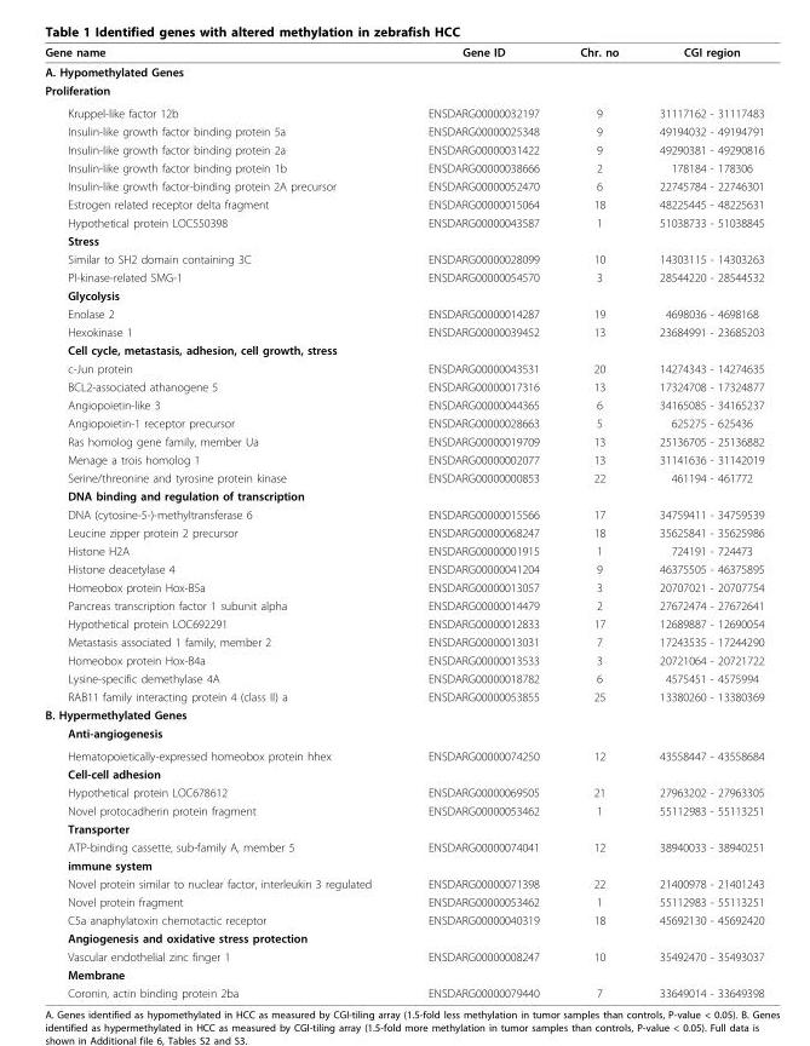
<table><thead><tr><td>Gene name</td><td>Gene ID</td><td>Chr. no</td><td>CGI region</td></tr></thead><tbody><tr><td colspan="4">A. Hypomethylated Genes</td></tr><tr><td colspan="4">Proliferation</td></tr><tr><td>Kruppel-like factor 12b</td><td>ENSDARG00000032197</td><td>9</td><td>31117162 - 31117483</td></tr><tr><td>Insulin-like growth factor binding protein 5a</td><td>ENSDARG00000025348</td><td>9</td><td>49194032 - 49194791</td></tr><tr><td>Insulin-like growth factor binding protein 2a</td><td>ENSDARG00000031422</td><td>9</td><td>49290381 - 49290816</td></tr><tr><td>Insulin-like growth factor binding protein 1b</td><td>ENSDARG00000038666</td><td>2</td><td>178184 - 178306</td></tr><tr><td>Insulin-like growth factor-binding protein 2A precursor</td><td>ENSDARG00000052470</td><td>6</td><td>22745784 - 22746301</td></tr><tr><td>Estrogen related receptor delta fragment</td><td>ENSDARG00000015064</td><td>18</td><td>48225445 - 48225631</td></tr><tr><td>Hypothetical protein LOC550398</td><td>ENSDARG00000043587</td><td>1</td><td>51038733 - 51038845</td></tr><tr><td colspan="4">Stress</td></tr><tr><td>Similar to SH2 domain containing 3C</td><td>ENSDARG00000028099</td><td>10</td><td>14303115 - 14303263</td></tr><tr><td>PI-kinase-related SMG-1</td><td>ENSDARG00000054570</td><td>3</td><td>28544220 - 28544532</td></tr><tr><td colspan="4">Glycolysis</td></tr><tr><td>Enolase 2</td><td>ENSDARG00000014287</td><td>19</td><td>4698036 - 4698168</td></tr><tr><td>Hexokinase 1</td><td>ENSDARG00000039452</td><td>13</td><td>23684991 - 23685203</td></tr><tr><td colspan="4">Cell cycle, metastasis, adhesion, cell growth, stress</td></tr><tr><td>c-Jun protein</td><td>ENSDARG00000043531</td><td>20</td><td>14274343 - 14274635</td></tr><tr><td>BCL2-associated athanogene 5</td><td>ENSDARG00000017316</td><td>13</td><td>17324708 - 17324877</td></tr><tr><td>Angiopoietin-like 3</td><td>ENSDARG00000044365</td><td>6</td><td>34165085 - 34165237</td></tr><tr><td>Angiopoietin-1 receptor precursor</td><td>ENSDARG00000028663</td><td>5</td><td>625275 - 625436</td></tr><tr><td>Ras homolog gene family, member Ua</td><td>ENSDARG00000019709</td><td>13</td><td>25136705 - 25136882</td></tr><tr><td>Menage a trois homolog 1</td><td>ENSDARG00000002077</td><td>13</td><td>31141636 - 31142019</td></tr><tr><td>Serine/threonine and tyrosine protein kinase</td><td>ENSDARG00000000853</td><td>22</td><td>461194 - 461772</td></tr><tr><td colspan="4">DNA binding and regulation of transcription</td></tr><tr><td>DNA (cytosine-5-)-methyltransferase 6</td><td>ENSDARG00000015566</td><td>17</td><td>34759411 - 34759539</td></tr><tr><td>Leucine zipper protein 2 precursor</td><td>ENSDARG00000068247</td><td>18</td><td>35625841 - 35625986</td></tr><tr><td>Histone H2A</td><td>ENSDARG00000001915</td><td>1</td><td>724191 - 724473</td></tr><tr><td>Histone deacetylase 4</td><td>ENSDARG00000041204</td><td>9</td><td>46375505 - 46375895</td></tr><tr><td>Homeobox protein Hox-B5a</td><td>ENSDARG00000013057</td><td>3</td><td>20707021 - 20707754</td></tr><tr><td>Pancreas transcription factor 1 subunit alpha</td><td>ENSDARG00000014479</td><td>2</td><td>27672474 - 27672641</td></tr><tr><td>Hypothetical protein LOC692291</td><td>ENSDARG00000012833</td><td>17</td><td>12689887 - 12690054</td></tr><tr><td>Metastasis associated 1 family, member 2</td><td>ENSDARG00000013031</td><td>7</td><td>17243535 - 17244290</td></tr><tr><td>Homeobox protein Hox-B4a</td><td>ENSDARG00000013533</td><td>3</td><td>20721064 - 20721722</td></tr><tr><td>Lysine-specific demethylase 4A</td><td>ENSDARG00000018782</td><td>6</td><td>4575451 - 4575994</td></tr><tr><td>RAB11 family interacting protein 4 (class II) a</td><td>ENSDARG00000053855</td><td>25</td><td>13380260 - 13380369</td></tr><tr><td colspan="4">B. Hypermethylated Genes</td></tr><tr><td colspan="4">Anti-angiogenesis</td></tr><tr><td>Hematopoietically-expressed homeobox protein hhex</td><td>ENSDARG00000074250</td><td>12</td><td>43558447 - 43558684</td></tr><tr><td colspan="4">Cell-cell adhesion</td></tr><tr><td>Hypothetical protein LOC678612</td><td>ENSDARG00000069505</td><td>21</td><td>27963202 - 27963305</td></tr><tr><td>Novel protocadherin protein fragment</td><td>ENSDARG00000053462</td><td>1</td><td>55112983 - 55113251</td></tr><tr><td colspan="4">Transporter</td></tr><tr><td>ATP-binding cassette, sub-family A, member 5</td><td>ENSDARG00000074041</td><td>12</td><td>38940033 - 38940251</td></tr><tr><td colspan="4">immune system</td></tr><tr><td>Novel protein similar to nuclear factor, interleukin 3 regulated</td><td>ENSDARG00000071398</td><td>22</td><td>21400978 - 21401243</td></tr><tr><td>Novel protein fragment</td><td>ENSDARG00000053462</td><td>1</td><td>55112983 - 55113251</td></tr><tr><td>C5a anaphylatoxin chemotactic receptor</td><td>ENSDARG00000040319</td><td>18</td><td>45692130 - 45692420</td></tr><tr><td colspan="4">Angiogenesis and oxidative stress protection</td></tr><tr><td>Vascular endothelial zinc finger 1</td><td>ENSDARG00000008247</td><td>10</td><td>35492470 - 35493037</td></tr><tr><td colspan="4">Membrane</td></tr><tr><td>Coronin, actin binding protein 2ba</td><td>ENSDARG00000079440</td><td>7</td><td>33649014 - 33649398</td></tr></tbody></table>